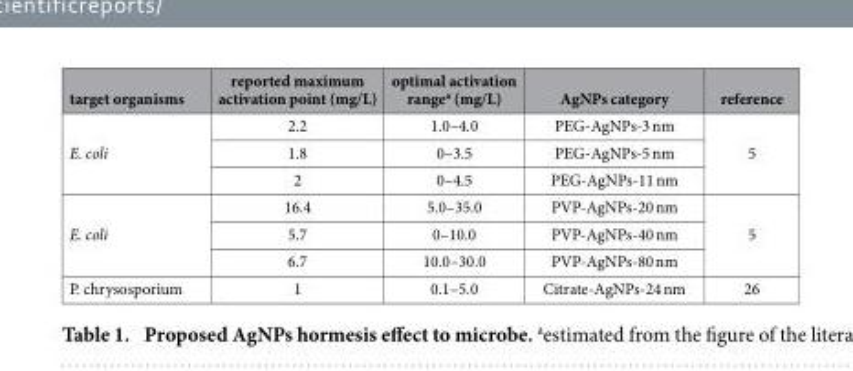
<table><thead><tr><td>target organisms</td><td>reported maximum activation point (mg/L)</td><td>optimal activation range<sup>a</sup> (mg/L)</td><td>AgNPs category</td><td>reference</td></tr></thead><tbody><tr><td rowspan="3">E. coli</td><td>2.2</td><td>1.0–4.0</td><td>PEG-AgNPs-3 nm</td><td rowspan="3">5</td></tr><tr><td>1.8</td><td>0–3.5</td><td>PEG-AgNPs-5 nm</td></tr><tr><td>2</td><td>0–4.5</td><td>PEG-AgNPs-11 nm</td></tr><tr><td rowspan="3">E. coli</td><td>16.4</td><td>5.0–35.0</td><td>PVP-AgNPs-20 nm</td><td rowspan="3">5</td></tr><tr><td>5.7</td><td>0–10.0</td><td>PVP-AgNPs-40 nm</td></tr><tr><td>6.7</td><td>10.0–30.0</td><td>PVP-AgNPs-80 nm</td></tr><tr><td>P. chrysosporium</td><td>1</td><td>0.1–5.0</td><td>Citrate-AgNPs-24 nm</td><td>26</td></tr></tbody></table>